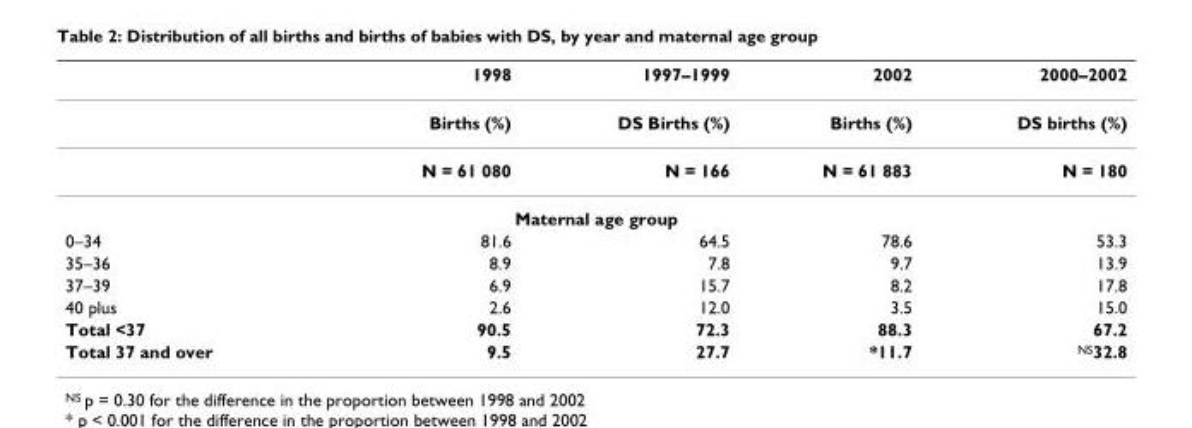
<table><thead><tr><td></td><td>1998</td><td>1997–1999</td><td>2002</td><td>2000–2002</td></tr></thead><tbody><tr><td></td><td>Births (%)</td><td>DS Births (%)</td><td>Births (%)</td><td>DS births (%)</td></tr><tr><td></td><td>N = 61 080</td><td>N = 166</td><td>N = 61 883</td><td>N = 180</td></tr><tr><td colspan="5">Maternal age group</td></tr><tr><td>0–34</td><td>81.6</td><td>64.5</td><td>78.6</td><td>53.3</td></tr><tr><td>35–36</td><td>8.9</td><td>7.8</td><td>9.7</td><td>13.9</td></tr><tr><td>37–39</td><td>6.9</td><td>15.7</td><td>8.2</td><td>17.8</td></tr><tr><td>40 plus</td><td>2.6</td><td>12.0</td><td>3.5</td><td>15.0</td></tr><tr><td>Total &lt;37</td><td>90.5</td><td>72.3</td><td>88.3</td><td>67.2</td></tr><tr><td>Total 37 and over</td><td>9.5</td><td>27.7</td><td>*11.7</td><td><sup>NS</sup>32.8</td></tr></tbody></table>